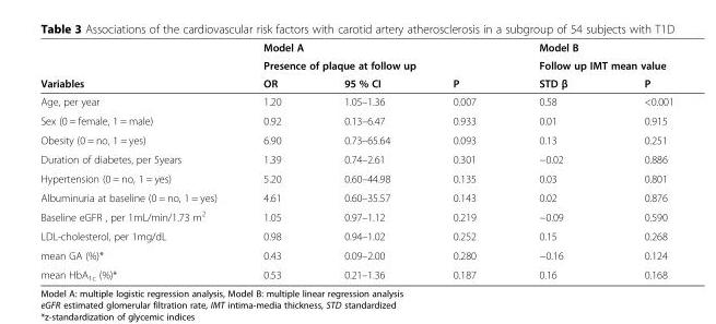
<table><thead><tr><td rowspan="3">Variables</td><td rowspan="2" colspan="3">Model A Presence of plaque at follow up</td><td rowspan="2" colspan="2">Model B Follow up IMT mean value</td></tr><tr></tr><tr><td>OR</td><td>95 % CI</td><td>P</td><td>STD β</td><td>P</td></tr></thead><tbody><tr><td>Age, per year</td><td>1.20</td><td>1.05–1.36</td><td>0.007</td><td>0.58</td><td>&lt;0.001</td></tr><tr><td>Sex (0 = female, 1 = male)</td><td>0.92</td><td>0.13–6.47</td><td>0.933</td><td>0.01</td><td>0.915</td></tr><tr><td>Obesity (0 = no, 1 = yes)</td><td>6.90</td><td>0.73–65.64</td><td>0.093</td><td>0.13</td><td>0.251</td></tr><tr><td>Duration of diabetes, per 5years</td><td>1.39</td><td>0.74–2.61</td><td>0.301</td><td>−0.02</td><td>0.886</td></tr><tr><td>Hypertension (0 = no, 1 = yes)</td><td>5.20</td><td>0.60–44.98</td><td>0.135</td><td>0.03</td><td>0.801</td></tr><tr><td>Albuminuria at baseline (0 = no, 1 = yes)</td><td>4.61</td><td>0.60–35.57</td><td>0.143</td><td>0.02</td><td>0.876</td></tr><tr><td>Baseline eGFR , per 1mL/min/1.73 m<sup>2</sup></td><td>1.05</td><td>0.97–1.12</td><td>0.219</td><td>−0.09</td><td>0.590</td></tr><tr><td>LDL-cholesterol, per 1mg/dL</td><td>0.98</td><td>0.94–1.02</td><td>0.252</td><td>0.15</td><td>0.268</td></tr><tr><td>mean GA (%)*</td><td>0.43</td><td>0.09–2.00</td><td>0.280</td><td>−0.16</td><td>0.124</td></tr><tr><td>mean HbA<sub>1c</sub> (%)*</td><td>0.53</td><td>0.21–1.36</td><td>0.187</td><td>0.16</td><td>0.168</td></tr></tbody></table>